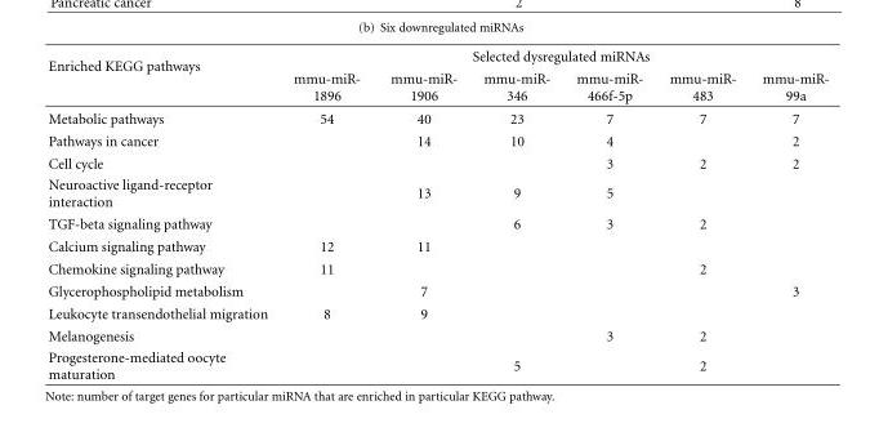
<table><thead><tr><td rowspan="2">Enriched KEGG pathways</td><td colspan="6">Selected dysregulated miRNAs</td></tr><tr><td>mmu-miR- 1896</td><td>mmu-miR- 1906</td><td>mmu-miR- 346</td><td>mmu-miR- 466f-5p</td><td>mmu-miR- 483</td><td>mmu-miR- 99a</td></tr></thead><tbody><tr><td>Metabolic pathways</td><td>54</td><td>40</td><td>23</td><td>7</td><td>7</td><td>7</td></tr><tr><td>Pathways in cancer</td><td></td><td>14</td><td>10</td><td>4</td><td></td><td>2</td></tr><tr><td>Cell cycle</td><td></td><td></td><td></td><td>3</td><td>2</td><td>2</td></tr><tr><td>Neuroactive ligand-receptor interaction</td><td></td><td>13</td><td>9</td><td>5</td><td></td><td></td></tr><tr><td>TGF-beta signaling pathway</td><td></td><td></td><td>6</td><td>3</td><td>2</td><td></td></tr><tr><td>Calcium signaling pathway</td><td>12</td><td>11</td><td></td><td></td><td></td><td></td></tr><tr><td>Chemokine signaling pathway</td><td>11</td><td></td><td></td><td></td><td>2</td><td></td></tr><tr><td>Glycerophospholipid metabolism</td><td></td><td>7</td><td></td><td></td><td></td><td>3</td></tr><tr><td>Leukocyte transendothelial migration</td><td>8</td><td>9</td><td></td><td></td><td></td><td></td></tr><tr><td>Melanogenesis</td><td></td><td></td><td></td><td>3</td><td>2</td><td></td></tr><tr><td>Progesterone-mediated oocyte maturation</td><td></td><td></td><td>5</td><td></td><td>2</td><td></td></tr></tbody></table>